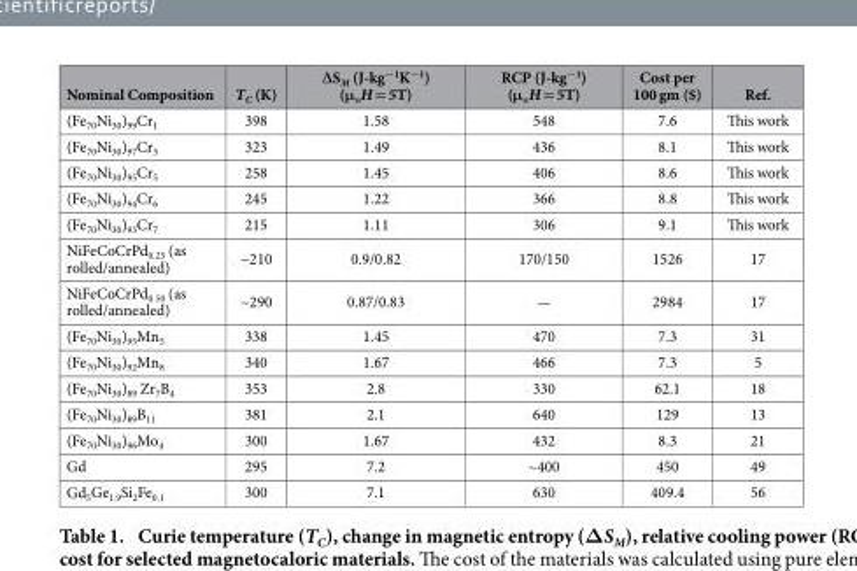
<table><thead><tr><td>Nominal Composition</td><td>T<sub>C</sub> (K)</td><td>∆S<sub>M</sub> (J-kg<sup>−1</sup>K<sup>−1</sup>) (μ<sub>o</sub>H = 5T)</td><td>RCP (J-kg<sup>−1</sup>) (μ<sub>o</sub>H = 5T)</td><td>Cost per 100 gm ($)</td><td>Ref.</td></tr></thead><tbody><tr><td>(Fe<sub>70</sub>Ni<sub>30</sub>)<sub>99</sub>Cr<sub>1</sub></td><td>398</td><td>1.58</td><td>548</td><td>7.6</td><td>This work</td></tr><tr><td>(Fe<sub>70</sub>Ni<sub>30</sub>)<sub>97</sub>Cr<sub>3</sub></td><td>323</td><td>1.49</td><td>436</td><td>8.1</td><td>This work</td></tr><tr><td>(Fe<sub>70</sub>Ni<sub>30</sub>)<sub>95</sub>Cr<sub>5</sub></td><td>258</td><td>1.45</td><td>406</td><td>8.6</td><td>This work</td></tr><tr><td>(Fe<sub>70</sub>Ni<sub>30</sub>)<sub>94</sub>Cr<sub>6</sub></td><td>245</td><td>1.22</td><td>366</td><td>8.8</td><td>This work</td></tr><tr><td>(Fe<sub>70</sub>Ni<sub>30</sub>)<sub>93</sub>Cr<sub>7</sub></td><td>215</td><td>1.11</td><td>306</td><td>9.1</td><td>This work</td></tr><tr><td>NiFeCoCrPd<sub>0.25</sub> (as rolled/annealed)</td><td>~210</td><td>0.9/0.82</td><td>170/150</td><td>1526</td><td>17</td></tr><tr><td>NiFeCoCrPd<sub>0.50</sub> (as rolled/annealed)</td><td>~290</td><td>0.87/0.83</td><td>—</td><td>2984</td><td>17</td></tr><tr><td>(Fe<sub>70</sub>Ni<sub>30</sub>)<sub>95</sub>Mn<sub>5</sub></td><td>338</td><td>1.45</td><td>470</td><td>7.3</td><td>31</td></tr><tr><td>(Fe<sub>70</sub>Ni<sub>30</sub>)<sub>92</sub>Mn<sub>8</sub></td><td>340</td><td>1.67</td><td>466</td><td>7.3</td><td>5</td></tr><tr><td>(Fe<sub>70</sub>Ni<sub>30</sub>)<sub>89</sub> Zr<sub>7</sub>B<sub>4</sub></td><td>353</td><td>2.8</td><td>330</td><td>62.1</td><td>18</td></tr><tr><td>(Fe<sub>70</sub>Ni<sub>30</sub>)<sub>89</sub>B<sub>11</sub></td><td>381</td><td>2.1</td><td>640</td><td>129</td><td>13</td></tr><tr><td>(Fe<sub>70</sub>Ni<sub>30</sub>)<sub>96</sub>Mo<sub>4</sub></td><td>300</td><td>1.67</td><td>432</td><td>8.3</td><td>21</td></tr><tr><td>Gd</td><td>295</td><td>7.2</td><td>~400</td><td>450</td><td>49</td></tr><tr><td>Gd<sub>5</sub>Ge<sub>1.9</sub>Si<sub>2</sub>Fe<sub>0.1</sub></td><td>300</td><td>7.1</td><td>630</td><td>409.4</td><td>56</td></tr></tbody></table>